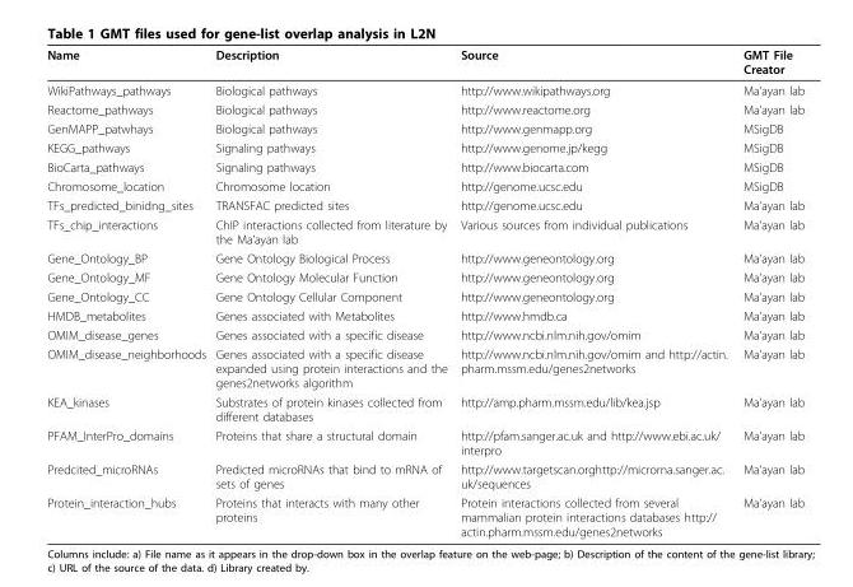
<table><thead><tr><td>Name</td><td>Description</td><td>Source</td><td>GMT File Creator</td></tr></thead><tbody><tr><td>WikiPathways_pathways</td><td>Biological pathways</td><td>http://www.wikipathways.org</td><td>Ma’ayan lab</td></tr><tr><td>Reactome_pathways</td><td>Biological pathways</td><td>http://www.reactome.org</td><td>Ma’ayan lab</td></tr><tr><td>GenMAPP_patwhays</td><td>Biological pathways</td><td>http://www.genmapp.org</td><td>MSigDB</td></tr><tr><td>KEGG_pathways</td><td>Signaling pathways</td><td>http://www.genome.jp/kegg</td><td>MSigDB</td></tr><tr><td>BioCarta_pathways</td><td>Signaling pathways</td><td>http://www.biocarta.com</td><td>MSigDB</td></tr><tr><td>Chromosome_location</td><td>Chromosome location</td><td>http://genome.ucsc.edu</td><td>MSigDB</td></tr><tr><td>TFs_predicted_binidng_sites</td><td>TRANSFAC predicted sites</td><td>http://genome.ucsc.edu</td><td>Ma’ayan lab</td></tr><tr><td>TFs_chip_interactions</td><td>ChIP interactions collected from literature by the Ma’ayan lab</td><td>Various sources from individual publications</td><td>Ma’ayan lab</td></tr><tr><td>Gene_Ontology_BP</td><td>Gene Ontology Biological Process</td><td>http://www.geneontology.org</td><td>Ma’ayan lab</td></tr><tr><td>Gene_Ontology_MF</td><td>Gene Ontology Molecular Function</td><td>http://www.geneontology.org</td><td>Ma’ayan lab</td></tr><tr><td>Gene_Ontology_CC</td><td>Gene Ontology Cellular Component</td><td>http://www.geneontology.org</td><td>Ma’ayan lab</td></tr><tr><td>HMDB_metabolites</td><td>Genes associated with Metabolites</td><td>http://www.hmdb.ca</td><td>Ma’ayan lab</td></tr><tr><td>OMIM_disease_genes</td><td>Genes associated with a specific disease</td><td>http://www.ncbi.nlm.nih.gov/omim</td><td>Ma’ayan lab</td></tr><tr><td>OMIM_disease_neighborhoods</td><td>Genes associated with a specific disease expanded using protein interactions and the genes2networks algorithm</td><td>http://www.ncbi.nlm.nih.gov/omim and http://actin. pharm.mssm.edu/genes2networks</td><td>Ma’ayan lab</td></tr><tr><td>KEA_kinases</td><td>Substrates of protein kinases collected from different databases</td><td>http://amp.pharm.mssm.edu/lib/kea.jsp</td><td>Ma’ayan lab</td></tr><tr><td>PFAM_InterPro_domains</td><td>Proteins that share a structural domain</td><td>http://pfam.sanger.ac.uk and http://www.ebi.ac.uk/ interpro</td><td>Ma’ayan lab</td></tr><tr><td>Predcited_microRNAs</td><td>Predicted microRNAs that bind to mRNA of sets of genes</td><td>http://www.targetscan.orghttp://microrna.sanger.ac. uk/sequences</td><td>Ma’ayan lab</td></tr><tr><td>Protein_interaction_hubs</td><td>Proteins that interacts with many other proteins</td><td>Protein interactions collected from several mammalian protein interactions databases http:// actin.pharm.mssm.edu/genes2networks</td><td>Ma’ayan lab</td></tr></tbody></table>